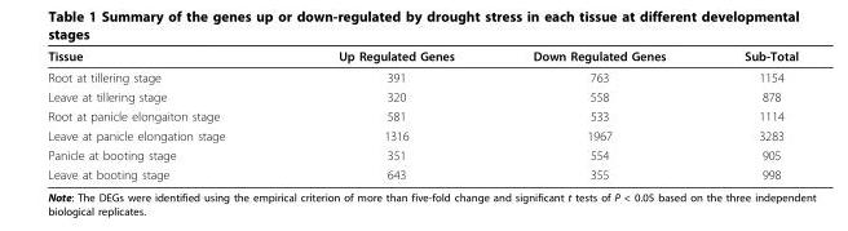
<table><thead><tr><td>Tissue</td><td>Up Regulated Genes</td><td>Down Regulated Genes</td><td>Sub-Total</td></tr></thead><tbody><tr><td>Root at tillering stage</td><td>391</td><td>763</td><td>1154</td></tr><tr><td>Leave at tillering stage</td><td>320</td><td>558</td><td>878</td></tr><tr><td>Root at panicle elongaiton stage</td><td>581</td><td>533</td><td>1114</td></tr><tr><td>Leave at panicle elongation stage</td><td>1316</td><td>1967</td><td>3283</td></tr><tr><td>Panicle at booting stage</td><td>351</td><td>554</td><td>905</td></tr><tr><td>Leave at booting stage</td><td>643</td><td>355</td><td>998</td></tr></tbody></table>